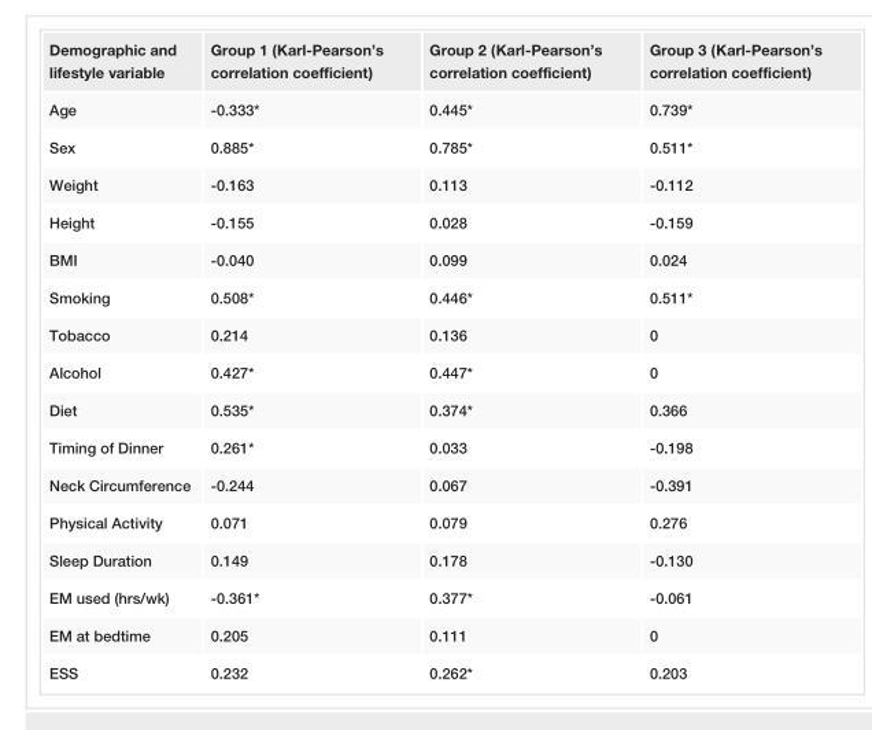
<table><tbody><tr><td>Demographic and lifestyle variable</td><td>Group 1 (Karl-Pearson’s correlation coefficient)</td><td>Group 2 (Karl-Pearson’s correlation coefficient)</td><td>Group 3 (Karl-Pearson’s correlation coefficient)</td></tr><tr><td>Age</td><td>-0.333*</td><td>0.445*</td><td>0.739*</td></tr><tr><td>Sex</td><td>0.885*</td><td>0.785*</td><td>0.511*</td></tr><tr><td>Weight</td><td>-0.163</td><td>0.113</td><td>-0.112</td></tr><tr><td>Height</td><td>-0.155</td><td>0.028</td><td>-0.159</td></tr><tr><td>BMI</td><td>-0.040</td><td>0.099</td><td>0.024</td></tr><tr><td>Smoking</td><td>0.508*</td><td>0.446*</td><td>0.511*</td></tr><tr><td>Tobacco</td><td>0.214</td><td>0.136</td><td>0</td></tr><tr><td>Alcohol</td><td>0.427*</td><td>0.447*</td><td>0</td></tr><tr><td>Diet</td><td>0.535*</td><td>0.374*</td><td>0.366</td></tr><tr><td>Timing of Dinner</td><td>0.261*</td><td>0.033</td><td>-0.198</td></tr><tr><td>Neck Circumference</td><td>-0.244</td><td>0.067</td><td>-0.391</td></tr><tr><td>Physical Activity</td><td>0.071</td><td>0.079</td><td>0.276</td></tr><tr><td>Sleep Duration</td><td>0.149</td><td>0.178</td><td>-0.130</td></tr><tr><td>EM used (hrs/wk)</td><td>-0.361*</td><td>0.377*</td><td>-0.061</td></tr><tr><td>EM at bedtime</td><td>0.205</td><td>0.111</td><td>0</td></tr><tr><td>ESS</td><td>0.232</td><td>0.262*</td><td>0.203</td></tr></tbody></table>